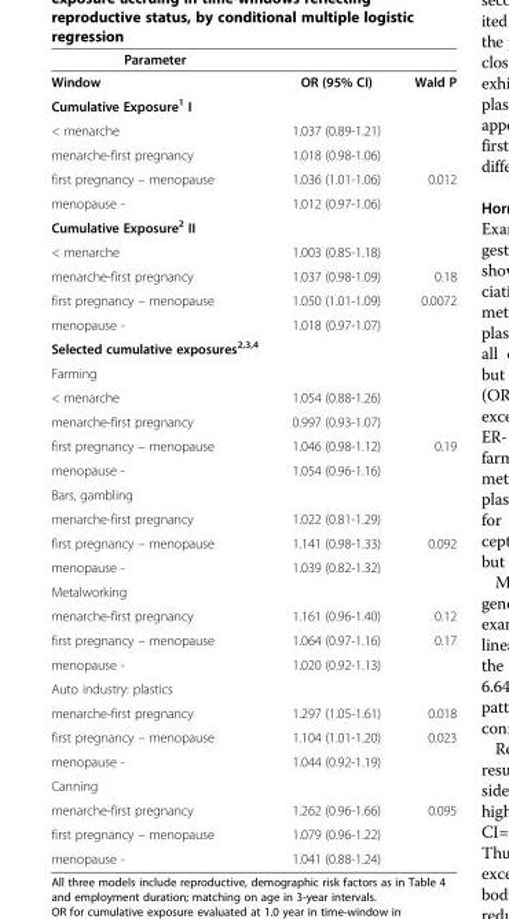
<table><thead><tr><td>Parameter</td><td></td><td></td></tr></thead><tbody><tr><td>Window</td><td>OR (95% CI)</td><td>Wald P</td></tr><tr><td colspan="3">Cumulative Exposure<sup>1</sup> I</td></tr><tr><td>&lt; menarche</td><td>1.037 (0.89-1.21)</td><td></td></tr><tr><td>menarche-first pregnancy</td><td>1.018 (0.98-1.06)</td><td></td></tr><tr><td>first pregnancy – menopause</td><td>1.036 (1.01-1.06)</td><td>0.012</td></tr><tr><td>menopause -</td><td>1.012 (0.97-1.06)</td><td></td></tr><tr><td colspan="3">Cumulative Exposure<sup>2</sup> II</td></tr><tr><td>&lt; menarche</td><td>1.003 (0.85-1.18)</td><td></td></tr><tr><td>menarche-first pregnancy</td><td>1.037 (0.98-1.09)</td><td>0.18</td></tr><tr><td>first pregnancy – menopause</td><td>1.050 (1.01-1.09)</td><td>0.0072</td></tr><tr><td>menopause -</td><td>1.018 (0.97-1.07)</td><td></td></tr><tr><td colspan="3">Selected cumulative exposures<sup>2,3,4</sup></td></tr><tr><td colspan="3">Farming</td></tr><tr><td>&lt; menarche</td><td>1.054 (0.88-1.26)</td><td></td></tr><tr><td>menarche-first pregnancy</td><td>0.997 (0.93-1.07)</td><td></td></tr><tr><td>first pregnancy – menopause</td><td>1.046 (0.98-1.12)</td><td>0.19</td></tr><tr><td>menopause -</td><td>1.054 (0.96-1.16)</td><td></td></tr><tr><td colspan="3">Bars, gambling</td></tr><tr><td>menarche-first pregnancy</td><td>1.022 (0.81-1.29)</td><td></td></tr><tr><td>first pregnancy – menopause</td><td>1.141 (0.98-1.33)</td><td>0.092</td></tr><tr><td>menopause -</td><td>1.039 (0.82-1.32)</td><td></td></tr><tr><td colspan="3">Metalworking</td></tr><tr><td>menarche-first pregnancy</td><td>1.161 (0.96-1.40)</td><td>0.12</td></tr><tr><td>first pregnancy – menopause</td><td>1.064 (0.97-1.16)</td><td>0.17</td></tr><tr><td>menopause -</td><td>1.020 (0.92-1.13)</td><td></td></tr><tr><td colspan="3">Auto industry: plastics</td></tr><tr><td>menarche-first pregnancy</td><td>1.297 (1.05-1.61)</td><td>0.018</td></tr><tr><td>first pregnancy – menopause</td><td>1.104 (1.01-1.20)</td><td>0.023</td></tr><tr><td>menopause -</td><td>1.044 (0.92-1.19)</td><td></td></tr><tr><td colspan="3">Canning</td></tr><tr><td>menarche-first pregnancy</td><td>1.262 (0.96-1.66)</td><td>0.095</td></tr><tr><td>first pregnancy – menopause</td><td>1.079 (0.96-1.22)</td><td></td></tr><tr><td>menopause -</td><td>1.041 (0.88-1.24)</td><td></td></tr></tbody></table>